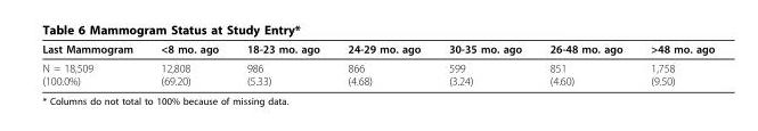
<table><thead><tr><td>Last Mammogram</td><td>&lt;8 mo. ago</td><td>18-23 mo. ago</td><td>24-29 mo. ago</td><td>30-35 mo. ago</td><td>26-48 mo. ago</td><td>&gt;48 mo. ago</td></tr></thead><tbody><tr><td>N = 18,509 (100.0%)</td><td>12,808 (69.20)</td><td>986 (5.33)</td><td>866 (4.68)</td><td>599 (3.24)</td><td>851 (4.60)</td><td>1,758 (9.50)</td></tr></tbody></table>